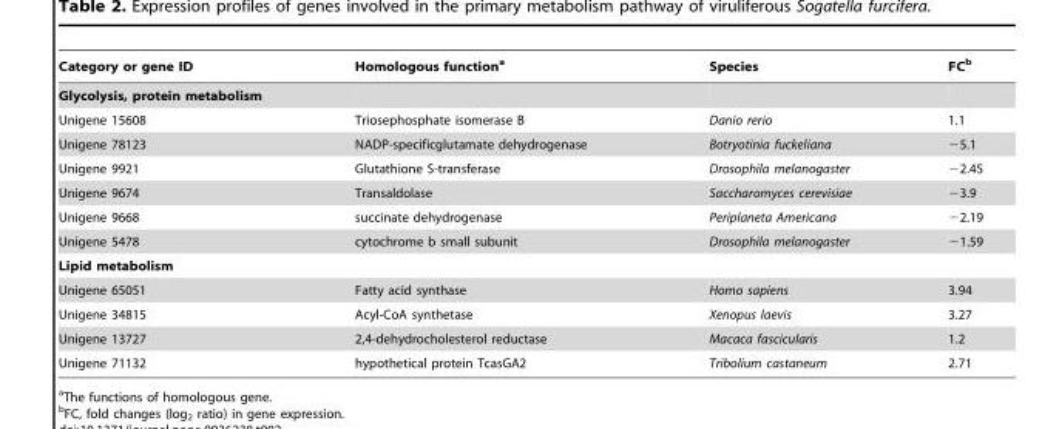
<table><thead><tr><td>Category or gene ID</td><td>Homologous function<sup>a</sup></td><td>Species</td><td>FC<sup>b</sup></td></tr></thead><tbody><tr><td colspan="4">Glycolysis, protein metabolism</td></tr><tr><td>Unigene 15608</td><td>Triosephosphate isomerase B</td><td>Danio rerio</td><td>1.1</td></tr><tr><td>Unigene 78123</td><td>NADP-specificglutamate dehydrogenase</td><td>Botryotinia fuckeliana</td><td>−5.1</td></tr><tr><td>Unigene 9921</td><td>Glutathione S-transferase</td><td>Drosophila melanogaster</td><td>−2.45</td></tr><tr><td>Unigene 9674</td><td>Transaldolase</td><td>Saccharomyces cerevisiae</td><td>−3.9</td></tr><tr><td>Unigene 9668</td><td>succinate dehydrogenase</td><td>Periplaneta Americana</td><td>−2.19</td></tr><tr><td>Unigene 5478</td><td>cytochrome b small subunit</td><td>Drosophila melanogaster</td><td>−1.59</td></tr><tr><td colspan="4">Lipid metabolism</td></tr><tr><td>Unigene 65051</td><td>Fatty acid synthase</td><td>Homo sapiens</td><td>3.94</td></tr><tr><td>Unigene 34815</td><td>Acyl-CoA synthetase</td><td>Xenopus laevis</td><td>3.27</td></tr><tr><td>Unigene 13727</td><td>2,4-dehydrocholesterol reductase</td><td>Macaca fascicularis</td><td>1.2</td></tr><tr><td>Unigene 71132</td><td>hypothetical protein TcasGA2</td><td>Tribolium castaneum</td><td>2.71</td></tr></tbody></table>